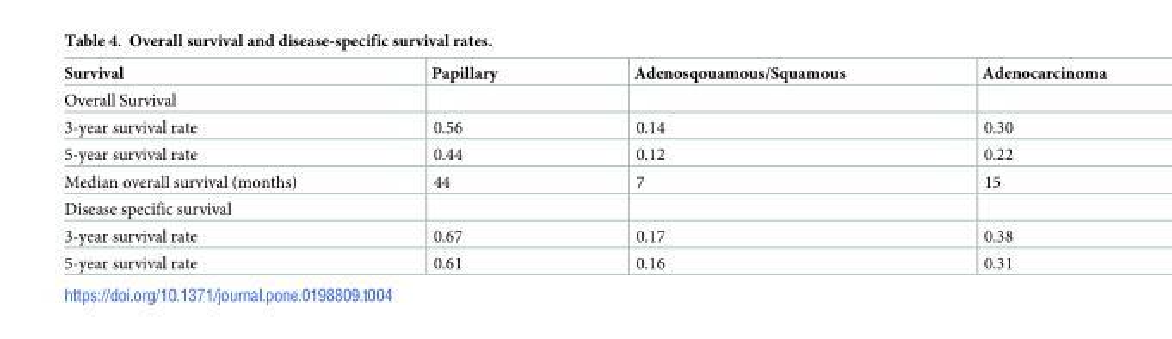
<table><thead><tr><td>Survival</td><td>Papillary</td><td>Adenosqouamous/Squamous</td><td>Adenocarcinoma</td></tr></thead><tbody><tr><td colspan="4">Overall Survival</td></tr><tr><td>3-year survival rate</td><td>0.56</td><td>0.14</td><td>0.30</td></tr><tr><td>5-year survival rate</td><td>0.44</td><td>0.12</td><td>0.22</td></tr><tr><td>Median overall survival (months)</td><td>44</td><td>7</td><td>15</td></tr><tr><td colspan="4">Disease specific survival</td></tr><tr><td>3-year survival rate</td><td>0.67</td><td>0.17</td><td>0.38</td></tr><tr><td>5-year survival rate</td><td>0.61</td><td>0.16</td><td>0.31</td></tr></tbody></table>